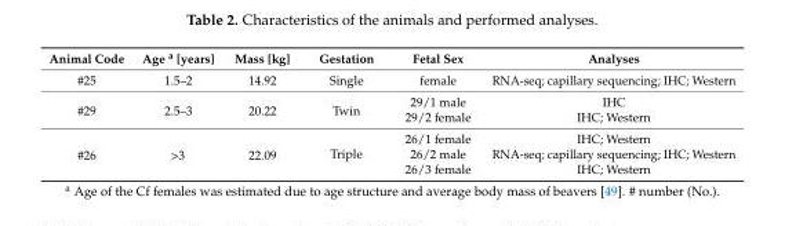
<table><thead><tr><td>Animal Code</td><td>Age <sup>a</sup> [years]</td><td>Mass [kg]</td><td>Gestation</td><td>Fetal Sex</td><td>Analyses</td></tr></thead><tbody><tr><td>#25</td><td>1.5–2</td><td>14.92</td><td>Single</td><td>female</td><td>RNA-seq; capillary sequencing; IHC; Western</td></tr><tr><td rowspan="2">#29</td><td rowspan="2">2.5–3</td><td rowspan="2">20.22</td><td rowspan="2">Twin</td><td>29/1 male</td><td>IHC</td></tr><tr><td>29/2 female</td><td>IHC; Western</td></tr><tr><td rowspan="3">#26</td><td rowspan="3">&gt;3</td><td rowspan="3">22.09</td><td rowspan="3">Triple</td><td>26/1 female</td><td>IHC; Western</td></tr><tr><td>26/2 male</td><td>RNA-seq; capillary sequencing; IHC; Western</td></tr><tr><td>26/3 female</td><td>IHC; Western</td></tr></tbody></table>